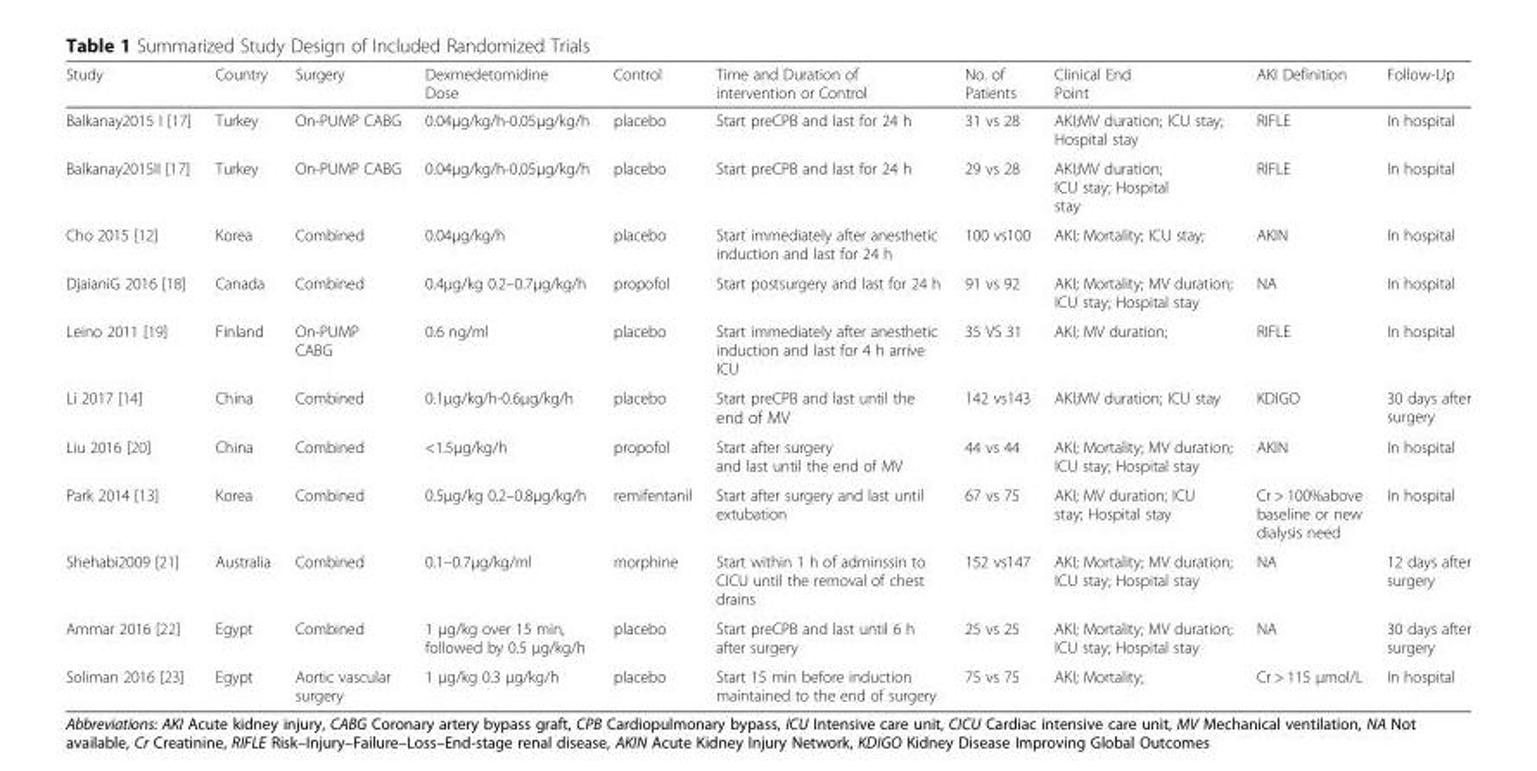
<table><thead><tr><td>Study</td><td>Country</td><td>Surgery</td><td>Dexmedetomidine Dose</td><td>Control</td><td>Time and Duration of intervention or Control</td><td>No. of Patients</td><td>Clinical End Point</td><td>AKI Definition</td><td>Follow-Up</td></tr></thead><tbody><tr><td>Balkanay2015 I [17]</td><td>Turkey</td><td>On-PUMP CABG</td><td>0.04μg/kg/h-0.05μg/kg/h</td><td>placebo</td><td>Start preCPB and last for 24 h</td><td>31 vs 28</td><td>AKI;MV duration; ICU stay; Hospital stay</td><td>RIFLE</td><td>In hospital</td></tr><tr><td>Balkanay2015II [17]</td><td>Turkey</td><td>On-PUMP CABG</td><td>0.04μg/kg/h-0.05μg/kg/h</td><td>placebo</td><td>Start preCPB and last for 24 h</td><td>29 vs 28</td><td>AKI;MV duration; ICU stay; Hospital stay</td><td>RIFLE</td><td>In hospital</td></tr><tr><td>Cho 2015 [12]</td><td>Korea</td><td>Combined</td><td>0.04μg/kg/h</td><td>placebo</td><td>Start immediately after anesthetic induction and last for 24 h</td><td>100 vs100</td><td>AKI; Mortality; ICU stay;</td><td>AKIN</td><td>In hospital</td></tr><tr><td>DjaianiG 2016 [18]</td><td>Canada</td><td>Combined</td><td>0.4μg/kg 0.2–0.7μg/kg/h</td><td>propofol</td><td>Start postsurgery and last for 24 h</td><td>91 vs 92</td><td>AKI; Mortality; MV duration; ICU stay; Hospital stay</td><td>NA</td><td>In hospital</td></tr><tr><td>Leino 2011 [19]</td><td>Finland</td><td>On-PUMP CABG</td><td>0.6 ng/ml</td><td>placebo</td><td>Start immediately after anesthetic induction and last for 4 h arrive ICU</td><td>35 VS 31</td><td>AKI; MV duration;</td><td>RIFLE</td><td>In hospital</td></tr><tr><td>Li 2017 [14]</td><td>China</td><td>Combined</td><td>0.1μg/kg/h-0.6μg/kg/h</td><td>placebo</td><td>Start preCPB and last until the end of MV</td><td>142 vs143</td><td>AKI;MV duration; ICU stay</td><td>KDIGO</td><td>30 days after surgery</td></tr><tr><td>Liu 2016 [20]</td><td>China</td><td>Combined</td><td>&lt;1.5μg/kg/h</td><td>propofol</td><td>Start after surgery and last until the end of MV</td><td>44 vs 44</td><td>AKI; Mortality; MV duration; ICU stay; Hospital stay</td><td>AKIN</td><td>In hospital</td></tr><tr><td>Park 2014 [13]</td><td>Korea</td><td>Combined</td><td>0.5μg/kg 0.2–0.8μg/kg/h</td><td>remifentanil</td><td>Start after surgery and last until extubation</td><td>67 vs 75</td><td>AKI; MV duration; ICU stay; Hospital stay</td><td>Cr &gt; 100%above baseline or new dialysis need</td><td>In hospital</td></tr><tr><td>Shehabi2009 [21]</td><td>Australia</td><td>Combined</td><td>0.1–0.7μg/kg/ml</td><td>morphine</td><td>Start within 1 h of adminssin to CICU until the removal of chest drains</td><td>152 vs147</td><td>AKI; Mortality; MV duration; ICU stay; Hospital stay</td><td>NA</td><td>12 days after surgery</td></tr><tr><td>Ammar 2016 [22]</td><td>Egypt</td><td>Combined</td><td>1 μg/kg over 15 min, followed by 0.5 μg/kg/h</td><td>placebo</td><td>Start preCPB and last until 6 h after surgery</td><td>25 vs 25</td><td>AKI; Mortality; MV duration; ICU stay; Hospital stay</td><td>NA</td><td>30 days after surgery</td></tr><tr><td>Soliman 2016 [23]</td><td>Egypt</td><td>Aortic vascular surgery</td><td>1 μg/kg 0.3 μg/kg/h</td><td>placebo</td><td>Start 15 min before induction maintained to the end of surgery</td><td>75 vs 75</td><td>AKI; Mortality;</td><td>Cr &gt; 115 μmol/L</td><td>In hospital</td></tr></tbody></table>